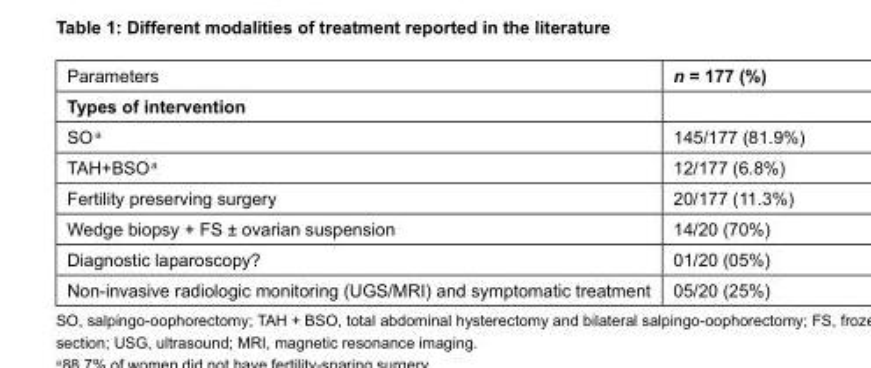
<table><thead><tr><td>Parameters</td><td>n = 177 (%)</td></tr></thead><tbody><tr><td colspan="2">Types of intervention</td></tr><tr><td>SO <sup>a</sup></td><td>145/177 (81.9%)</td></tr><tr><td>TAH+BSO <sup>a</sup></td><td>12/177 (6.8%)</td></tr><tr><td>Fertility preserving surgery</td><td>20/177 (11.3%)</td></tr><tr><td>Wedge biopsy + FS ± ovarian suspension</td><td>14/20 (70%)</td></tr><tr><td>Diagnostic laparoscopy?</td><td>01/20 (05%)</td></tr><tr><td>Non-invasive radiologic monitoring (UGS/MRI) and symptomatic treatment</td><td>05/20 (25%)</td></tr></tbody></table>